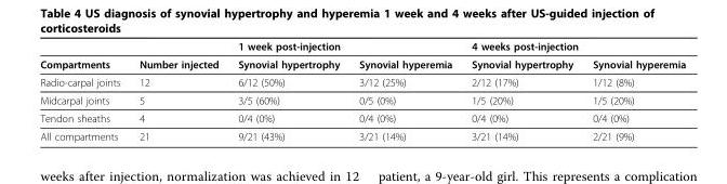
<table><thead><tr><td rowspan="2">Compartments</td><td rowspan="2">Number injected</td><td colspan="2">1 week post-injection</td><td colspan="2">4 weeks post-injection</td></tr><tr><td>Synovial hypertrophy</td><td>Synovial hyperemia</td><td>Synovial hypertrophy</td><td>Synovial hyperemia</td></tr></thead><tbody><tr><td>Radio-carpal joints</td><td>12</td><td>6/12 (50%)</td><td>3/12 (25%)</td><td>2/12 (17%)</td><td>1/12 (8%)</td></tr><tr><td>Midcarpal joints</td><td>5</td><td>3/5 (60%)</td><td>0/5 (0%)</td><td>1/5 (20%)</td><td>1/5 (20%)</td></tr><tr><td>Tendon sheaths</td><td>4</td><td>0/4 (0%)</td><td>0/4 (0%)</td><td>0/4 (0%)</td><td>0/4 (0%)</td></tr><tr><td>All compartments</td><td>21</td><td>9/21 (43%)</td><td>3/21 (14%)</td><td>3/21 (14%)</td><td>2/21 (9%)</td></tr></tbody></table>